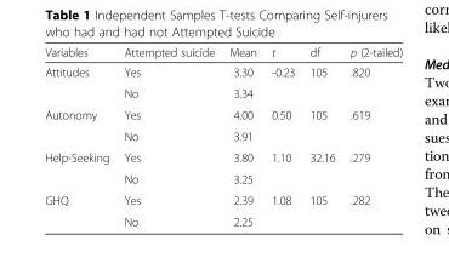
<table><thead><tr><td>Variables</td><td>Attempted suicide</td><td>Mean</td><td>t</td><td>df</td><td>p (2-tailed)</td></tr></thead><tbody><tr><td rowspan="2">Attitudes</td><td>Yes</td><td>3.30</td><td>-0.23</td><td>105</td><td>.820</td></tr><tr><td>No</td><td>3.34</td><td></td><td></td><td></td></tr><tr><td rowspan="2">Autonomy</td><td>Yes</td><td>4.00</td><td>0.50</td><td>105</td><td>.619</td></tr><tr><td>No</td><td>3.91</td><td></td><td></td><td></td></tr><tr><td rowspan="2">Help-Seeking</td><td>Yes</td><td>3.80</td><td>1.10</td><td>32.16</td><td>.279</td></tr><tr><td>No</td><td>3.25</td><td></td><td></td><td></td></tr><tr><td rowspan="2">GHQ</td><td>Yes</td><td>2.39</td><td>1.08</td><td>105</td><td>.282</td></tr><tr><td>No</td><td>2.25</td><td></td><td></td><td></td></tr></tbody></table>